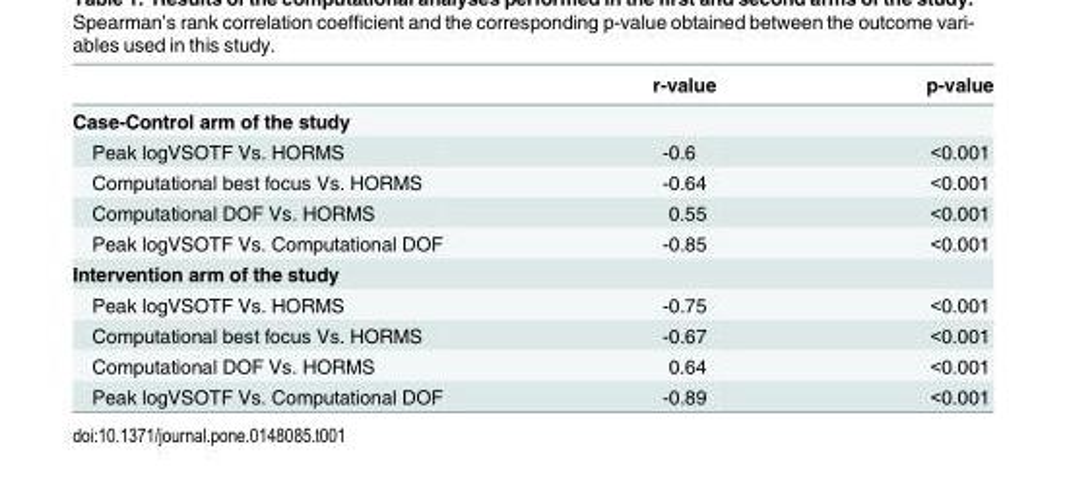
<table><thead><tr><td></td><td>r-value</td><td>p-value</td></tr></thead><tbody><tr><td colspan="3">Case-Control arm of the study</td></tr><tr><td>Peak logVSOTF Vs. HORMS</td><td>-0.6</td><td>&lt;0.001</td></tr><tr><td>Computational best focus Vs. HORMS</td><td>-0.64</td><td>&lt;0.001</td></tr><tr><td>Computational DOF Vs. HORMS</td><td>0.55</td><td>&lt;0.001</td></tr><tr><td>Peak logVSOTF Vs. Computational DOF</td><td>-0.85</td><td>&lt;0.001</td></tr><tr><td colspan="3">Intervention arm of the study</td></tr><tr><td>Peak logVSOTF Vs. HORMS</td><td>-0.75</td><td>&lt;0.001</td></tr><tr><td>Computational best focus Vs. HORMS</td><td>-0.67</td><td>&lt;0.001</td></tr><tr><td>Computational DOF Vs. HORMS</td><td>0.64</td><td>&lt;0.001</td></tr><tr><td>Peak logVSOTF Vs. Computational DOF</td><td>-0.89</td><td>&lt;0.001</td></tr></tbody></table>